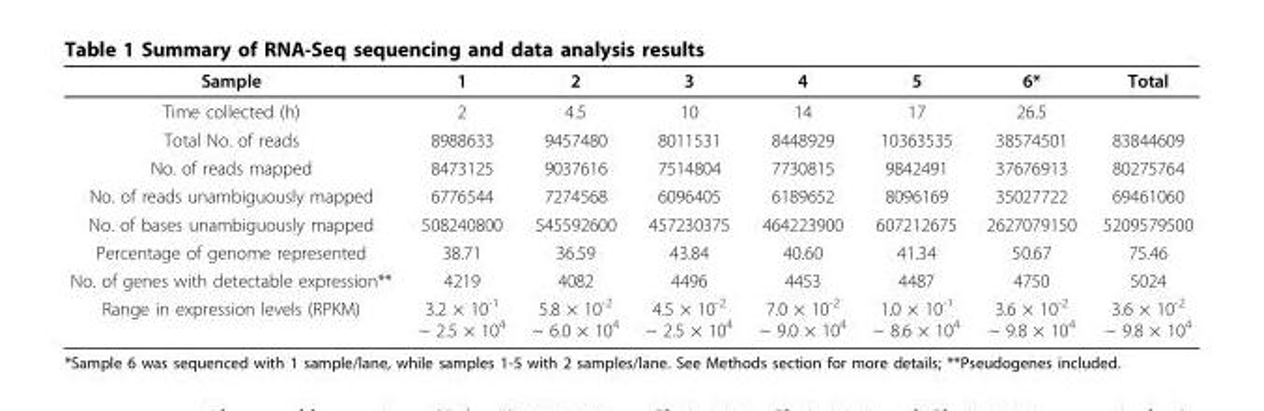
<table><thead><tr><td>Sample</td><td>1</td><td>2</td><td>3</td><td>4</td><td>5</td><td>6*</td><td>Total</td></tr></thead><tbody><tr><td>Time collected (h)</td><td>2</td><td>4.5</td><td>10</td><td>14</td><td>17</td><td>26.5</td><td></td></tr><tr><td>Total No. of reads</td><td>8988633</td><td>9457480</td><td>8011531</td><td>8448929</td><td>10363535</td><td>38574501</td><td>83844609</td></tr><tr><td>No. of reads mapped</td><td>8473125</td><td>9037616</td><td>7514804</td><td>7730815</td><td>9842491</td><td>37676913</td><td>80275764</td></tr><tr><td>No. of reads unambiguously mapped</td><td>6776544</td><td>7274568</td><td>6096405</td><td>6189652</td><td>8096169</td><td>35027722</td><td>69461060</td></tr><tr><td>No. of bases unambiguously mapped</td><td>508240800</td><td>545592600</td><td>457230375</td><td>464223900</td><td>607212675</td><td>2627079150</td><td>5209579500</td></tr><tr><td>Percentage of genome represented</td><td>38.71</td><td>36.59</td><td>43.84</td><td>40.60</td><td>41.34</td><td>50.67</td><td>75.46</td></tr><tr><td>No. of genes with detectable expression**</td><td>4219</td><td>4082</td><td>4496</td><td>4453</td><td>4487</td><td>4750</td><td>5024</td></tr><tr><td>Range in expression levels (RPKM)</td><td>3.2 × 10<sup>-1</sup> ~ 2.5 × 10<sup>4</sup></td><td>5.8 × 10<sup>-2</sup> ~ 6.0 × 10<sup>4</sup></td><td>4.5 × 10<sup>-2</sup> ~ 2.5 × 10<sup>4</sup></td><td>7.0 × 10<sup>-2</sup> ~ 9.0 × 10<sup>4</sup></td><td>1.0 × 10<sup>-1</sup> ~ 8.6 × 10<sup>4</sup></td><td>3.6 × 10<sup>-2</sup> ~ 9.8 × 10<sup>4</sup></td><td>3.6 × 10<sup>-2</sup> ~ 9.8 × 10<sup>4</sup></td></tr></tbody></table>